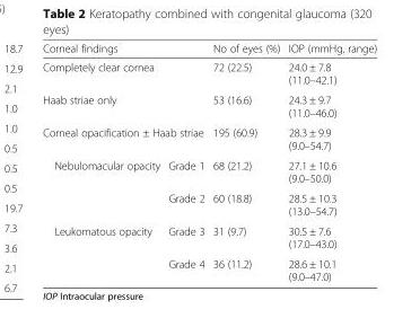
<table><thead><tr><td colspan="2">Corneal findings</td><td>No of eyes (%)</td><td>IOP (mmHg, range)</td></tr></thead><tbody><tr><td colspan="2">Completely clear cornea</td><td>72 (22.5)</td><td>24.0 ± 7.8 (11.0–42.1)</td></tr><tr><td colspan="2">Haab striae only</td><td>53 (16.6)</td><td>24.3 ± 9.7 (11.0–46.0)</td></tr><tr><td colspan="2">Corneal opacification ± Haab striae</td><td>195 (60.9)</td><td>28.3 ± 9.9 (9.0–54.7)</td></tr><tr><td rowspan="2">Nebulomacular opacity</td><td>Grade 1</td><td>68 (21.2)</td><td>27.1 ± 10.6 (9.0–50.0)</td></tr><tr><td>Grade 2</td><td>60 (18.8)</td><td>28.5 ± 10.3 (13.0–54.7)</td></tr><tr><td rowspan="2">Leukomatous opacity</td><td>Grade 3</td><td>31 (9.7)</td><td>30.5 ± 7.6 (17.0–43.0)</td></tr><tr><td>Grade 4</td><td>36 (11.2)</td><td>28.6 ± 10.1 (9.0–47.0)</td></tr></tbody></table>